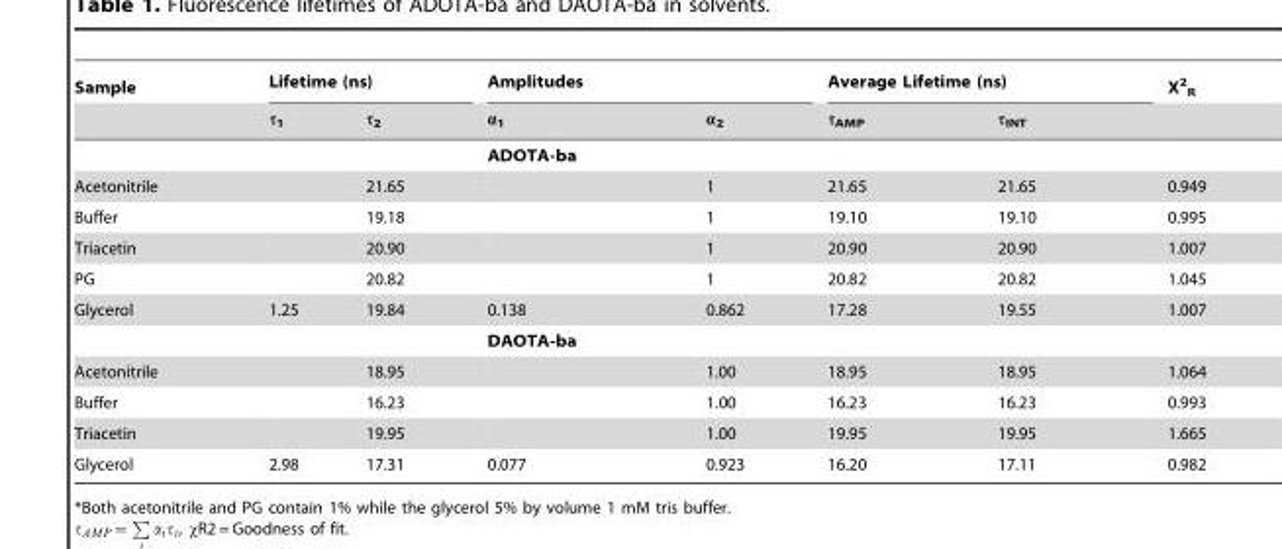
<table><thead><tr><td rowspan="2">Sample</td><td colspan="2">Lifetime (ns)</td><td colspan="2">Amplitudes</td><td colspan="2">Average Lifetime (ns)</td><td rowspan="2">X<sup>2</sup> <sub>R</sub></td></tr><tr><td>τ<sub>1</sub></td><td>τ<sub>2</sub></td><td>α<sub>1</sub></td><td>α<sub>2</sub></td><td>τ<sub>AMP</sub></td><td>τ<sub>INT</sub></td></tr></thead><tbody><tr><td></td><td></td><td></td><td>ADOTA-ba</td><td></td><td></td><td></td><td></td></tr><tr><td>Acetonitrile</td><td></td><td>21.65</td><td></td><td>1</td><td>21.65</td><td>21.65</td><td>0.949</td></tr><tr><td>Buffer</td><td></td><td>19.18</td><td></td><td>1</td><td>19.10</td><td>19.10</td><td>0.995</td></tr><tr><td>Triacetin</td><td></td><td>20.90</td><td></td><td>1</td><td>20.90</td><td>20.90</td><td>1.007</td></tr><tr><td>PG</td><td></td><td>20.82</td><td></td><td>1</td><td>20.82</td><td>20.82</td><td>1.045</td></tr><tr><td rowspan="2">Glycerol</td><td>1.25</td><td>19.84</td><td>0.138</td><td>0.862</td><td>17.28</td><td>19.55</td><td>1.007</td></tr><tr><td></td><td></td><td>DAOTA-ba</td><td></td><td></td><td></td><td></td></tr><tr><td>Acetonitrile</td><td></td><td>18.95</td><td></td><td>1.00</td><td>18.95</td><td>18.95</td><td>1.064</td></tr><tr><td>Buffer</td><td></td><td>16.23</td><td></td><td>1.00</td><td>16.23</td><td>16.23</td><td>0.993</td></tr><tr><td>Triacetin</td><td></td><td>19.95</td><td></td><td>1.00</td><td>19.95</td><td>19.95</td><td>1.665</td></tr><tr><td>Glycerol</td><td>2.98</td><td>17.31</td><td>0.077</td><td>0.923</td><td>16.20</td><td>17.11</td><td>0.982</td></tr></tbody></table>